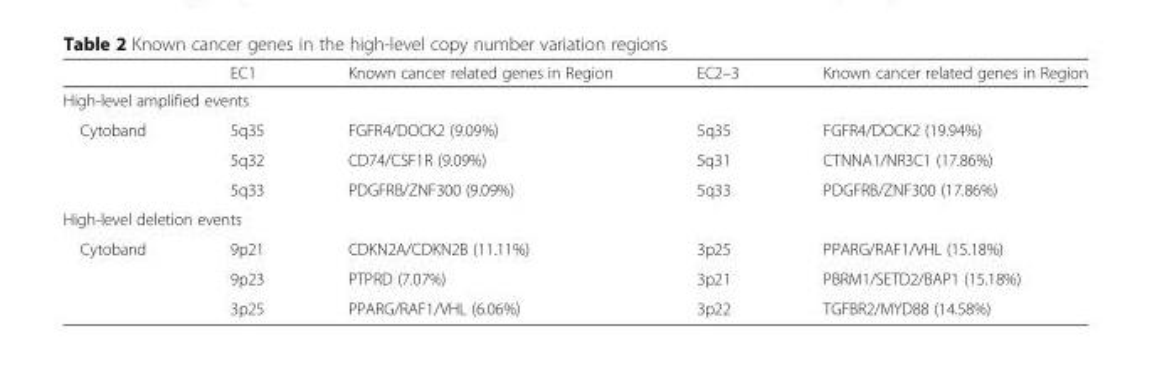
<table><thead><tr><td></td><td>EC1</td><td>Known cancer related genes in Region</td><td>EC2–3</td><td>Known cancer related genes in Region</td></tr></thead><tbody><tr><td colspan="5">High-level amplified events</td></tr><tr><td rowspan="3">Cytoband</td><td>5q35</td><td>FGFR4/DOCK2 (9.09%)</td><td>5q35</td><td>FGFR4/DOCK2 (19.94%)</td></tr><tr><td>5q32</td><td>CD74/CSF1R (9.09%)</td><td>5q31</td><td>CTNNA1/NR3C1 (17.86%)</td></tr><tr><td>5q33</td><td>PDGFRB/ZNF300 (9.09%)</td><td>5q33</td><td>PDGFRB/ZNF300 (17.86%)</td></tr><tr><td colspan="5">High-level deletion events</td></tr><tr><td rowspan="3">Cytoband</td><td>9p21</td><td>CDKN2A/CDKN2B (11.11%)</td><td>3p25</td><td>PPARG/RAF1/VHL (15.18%)</td></tr><tr><td>9p23</td><td>PTPRD (7.07%)</td><td>3p21</td><td>PBRM1/SETD2/BAP1 (15.18%)</td></tr><tr><td>3p25</td><td>PPARG/RAF1/VHL (6.06%)</td><td>3p22</td><td>TGFBR2/MYD88 (14.58%)</td></tr></tbody></table>